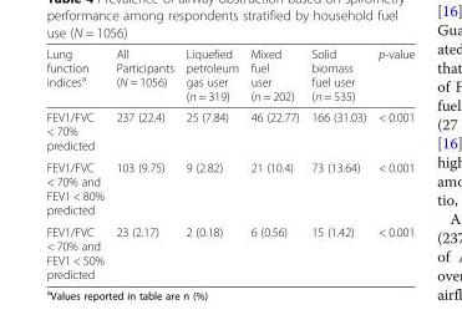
<table><thead><tr><td>Lung function indices<sup>a</sup></td><td>All Participants (N = 1056)</td><td>Liquefied petroleum gas user (n = 319)</td><td>Mixed fuel user (n = 202)</td><td>Solid biomass fuel user (n = 535)</td><td>p-value</td></tr></thead><tbody><tr><td>FEV1/FVC &lt; 70% predicted</td><td>237 (22.4)</td><td>25 (7.84)</td><td>46 (22.77)</td><td>166 (31.03)</td><td>&lt; 0.001</td></tr><tr><td>FEV1/FVC &lt; 70% and FEV1 &lt; 80% predicted</td><td>103 (9.75)</td><td>9 (2.82)</td><td>21 (10.4)</td><td>73 (13.64)</td><td>&lt; 0.001</td></tr><tr><td>FEV1/FVC &lt; 70% and FEV1 &lt; 50% predicted</td><td>23 (2.17)</td><td>2 (0.18)</td><td>6 (0.56)</td><td>15 (1.42)</td><td>&lt; 0.001</td></tr></tbody></table>